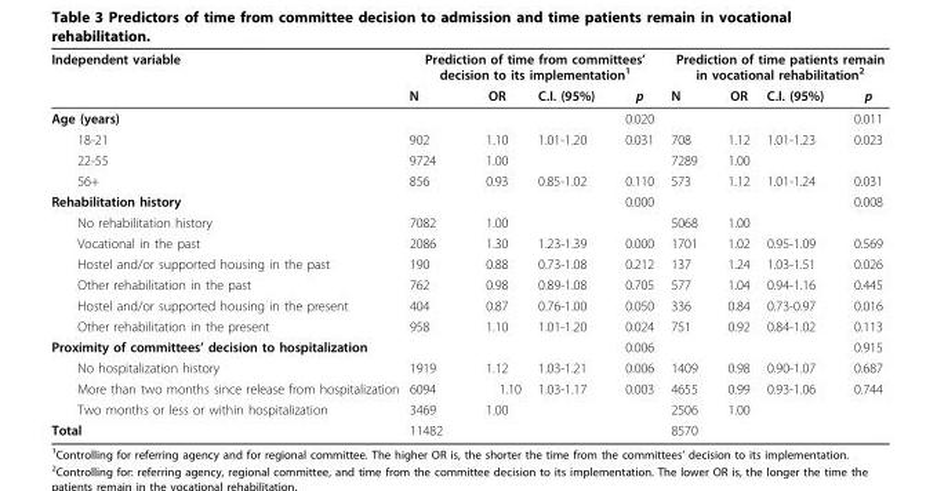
<table><thead><tr><td rowspan="2">Independent variable</td><td colspan="4">Prediction of time from committees’ decision to its implementation<sup>1</sup></td><td colspan="4">Prediction of time patients remain in vocational rehabilitation<sup>2</sup></td></tr><tr><td>N</td><td>OR</td><td>C.I. (95%)</td><td>p</td><td>N</td><td>OR</td><td>C.I. (95%)</td><td>p</td></tr></thead><tbody><tr><td>Age (years)</td><td></td><td></td><td></td><td>0.020</td><td></td><td></td><td></td><td>0.011</td></tr><tr><td>18-21</td><td>902</td><td>1.10</td><td>1.01-1.20</td><td>0.031</td><td>708</td><td>1.12</td><td>1.01-1.23</td><td>0.023</td></tr><tr><td>22-55</td><td>9724</td><td>1.00</td><td></td><td></td><td>7289</td><td>1.00</td><td></td><td></td></tr><tr><td>56+</td><td>856</td><td>0.93</td><td>0.85-1.02</td><td>0.110</td><td>573</td><td>1.12</td><td>1.01-1.24</td><td>0.031</td></tr><tr><td>Rehabilitation history</td><td></td><td></td><td></td><td>0.000</td><td></td><td></td><td></td><td>0.008</td></tr><tr><td>No rehabilitation history</td><td>7082</td><td>1.00</td><td></td><td></td><td>5068</td><td>1.00</td><td></td><td></td></tr><tr><td>Vocational in the past</td><td>2086</td><td>1.30</td><td>1.23-1.39</td><td>0.000</td><td>1701</td><td>1.02</td><td>0.95-1.09</td><td>0.569</td></tr><tr><td>Hostel and/or supported housing in the past</td><td>190</td><td>0.88</td><td>0.73-1.08</td><td>0.212</td><td>137</td><td>1.24</td><td>1.03-1.51</td><td>0.026</td></tr><tr><td>Other rehabilitation in the past</td><td>762</td><td>0.98</td><td>0.89-1.08</td><td>0.705</td><td>577</td><td>1.04</td><td>0.94-1.16</td><td>0.445</td></tr><tr><td>Hostel and/or supported housing in the present</td><td>404</td><td>0.87</td><td>0.76-1.00</td><td>0.050</td><td>336</td><td>0.84</td><td>0.73-0.97</td><td>0.016</td></tr><tr><td>Other rehabilitation in the present</td><td>958</td><td>1.10</td><td>1.01-1.20</td><td>0.024</td><td>751</td><td>0.92</td><td>0.84-1.02</td><td>0.113</td></tr><tr><td colspan="4">Proximity of committees’ decision to hospitalization</td><td>0.006</td><td></td><td></td><td></td><td>0.915</td></tr><tr><td>No hospitalization history</td><td>1919</td><td>1.12</td><td>1.03-1.21</td><td>0.006</td><td>1409</td><td>0.98</td><td>0.90-1.07</td><td>0.687</td></tr><tr><td>More than two months since release from hospitalization</td><td>6094</td><td>1.10</td><td>1.03-1.17</td><td>0.003</td><td>4655</td><td>0.99</td><td>0.93-1.06</td><td>0.744</td></tr><tr><td>Two months or less or within hospitalization</td><td>3469</td><td>1.00</td><td></td><td></td><td>2506</td><td>1.00</td><td></td><td></td></tr><tr><td>Total</td><td>11482</td><td></td><td></td><td></td><td>8570</td><td></td><td></td><td></td></tr></tbody></table>